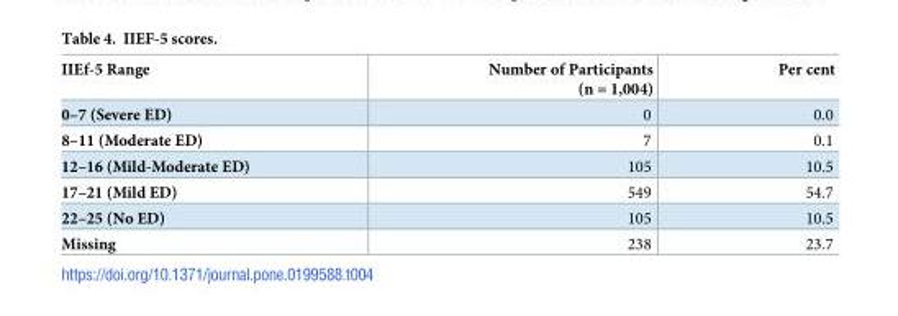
<table><thead><tr><td>IIEf-5 Range</td><td>Number of Participants (n = 1,004)</td><td>Per cent</td></tr></thead><tbody><tr><td>0–7 (Severe ED)</td><td>0</td><td>0.0</td></tr><tr><td>8–11 (Moderate ED)</td><td>7</td><td>0.1</td></tr><tr><td>12–16 (Mild-Moderate ED)</td><td>105</td><td>10.5</td></tr><tr><td>17–21 (Mild ED)</td><td>549</td><td>54.7</td></tr><tr><td>22–25 (No ED)</td><td>105</td><td>10.5</td></tr><tr><td>Missing</td><td>238</td><td>23.7</td></tr></tbody></table>